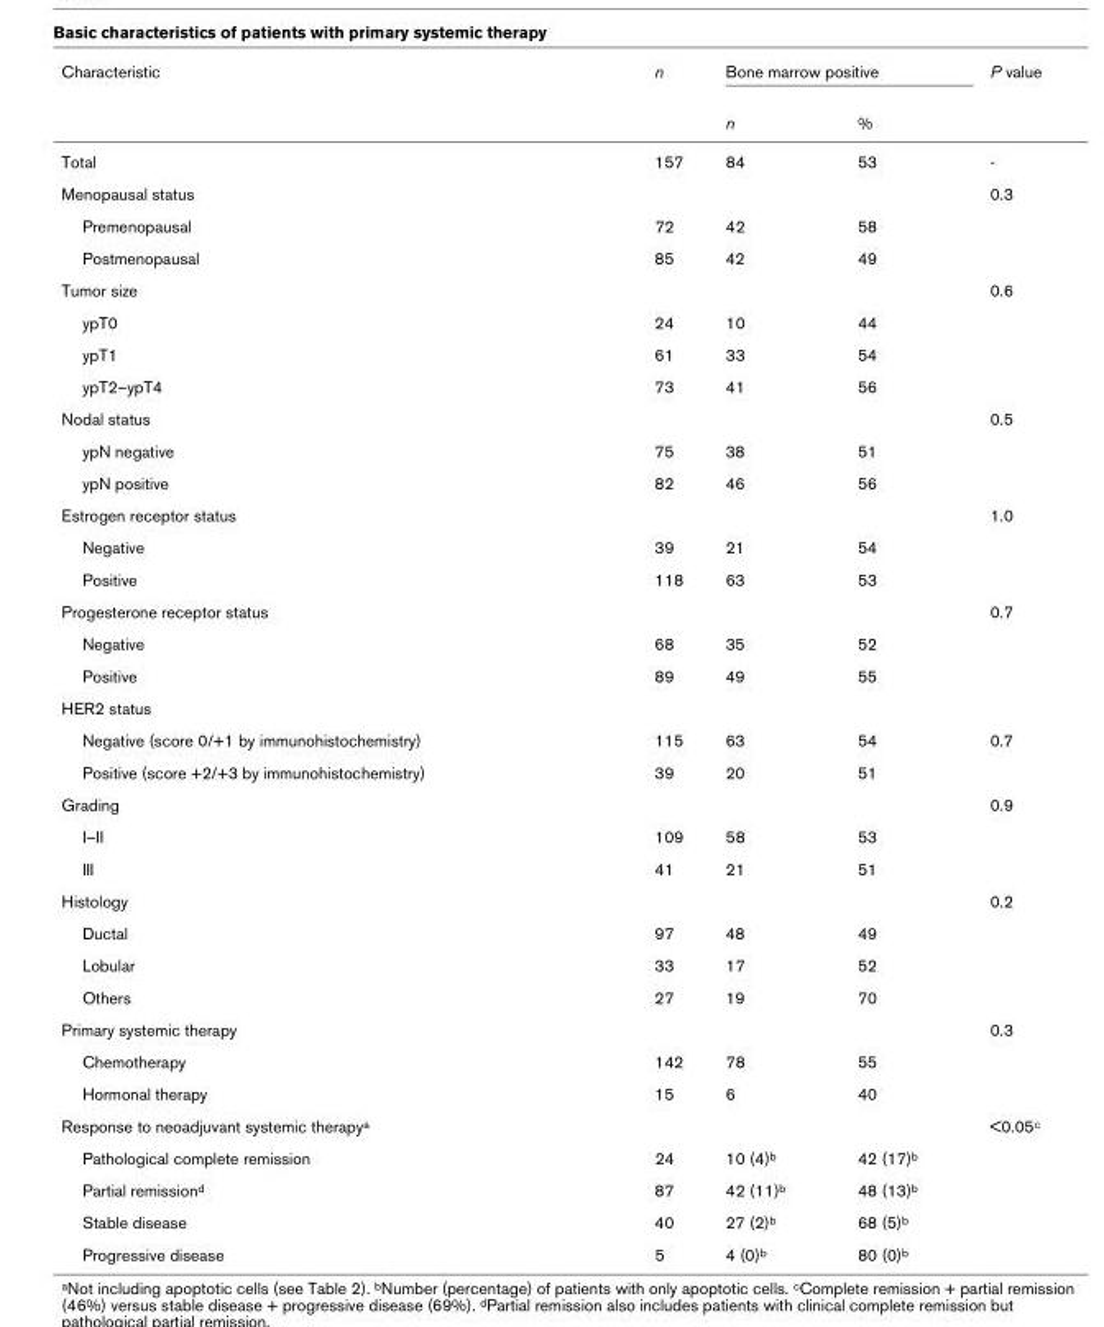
<table><thead><tr><td rowspan="2">Characteristic</td><td rowspan="2">n</td><td colspan="2">Bone marrow positive</td><td rowspan="2">P value</td></tr><tr><td>n</td><td>%</td></tr></thead><tbody><tr><td>Total</td><td>157</td><td>84</td><td>53</td><td>-</td></tr><tr><td>Menopausal status</td><td></td><td></td><td></td><td>0.3</td></tr><tr><td>Premenopausal</td><td>72</td><td>42</td><td>58</td><td></td></tr><tr><td>Postmenopausal</td><td>85</td><td>42</td><td>49</td><td></td></tr><tr><td>Tumor size</td><td></td><td></td><td></td><td>0.6</td></tr><tr><td>ypT0</td><td>24</td><td>10</td><td>44</td><td></td></tr><tr><td>ypT1</td><td>61</td><td>33</td><td>54</td><td></td></tr><tr><td>ypT2–ypT4</td><td>73</td><td>41</td><td>56</td><td></td></tr><tr><td>Nodal status</td><td></td><td></td><td></td><td>0.5</td></tr><tr><td>ypN negative</td><td>75</td><td>38</td><td>51</td><td></td></tr><tr><td>ypN positive</td><td>82</td><td>46</td><td>56</td><td></td></tr><tr><td>Estrogen receptor status</td><td></td><td></td><td></td><td>1.0</td></tr><tr><td>Negative</td><td>39</td><td>21</td><td>54</td><td></td></tr><tr><td>Positive</td><td>118</td><td>63</td><td>53</td><td></td></tr><tr><td>Progesterone receptor status</td><td></td><td></td><td></td><td>0.7</td></tr><tr><td>Negative</td><td>68</td><td>35</td><td>52</td><td></td></tr><tr><td>Positive</td><td>89</td><td>49</td><td>55</td><td></td></tr><tr><td colspan="5">HER2 status</td></tr><tr><td>Negative (score 0/+1 by immunohistochemistry)</td><td>115</td><td>63</td><td>54</td><td>0.7</td></tr><tr><td>Positive (score +2/+3 by immunohistochemistry)</td><td>39</td><td>20</td><td>51</td><td></td></tr><tr><td>Grading</td><td></td><td></td><td></td><td>0.9</td></tr><tr><td>I–II</td><td>109</td><td>58</td><td>53</td><td></td></tr><tr><td>III</td><td>41</td><td>21</td><td>51</td><td></td></tr><tr><td>Histology</td><td></td><td></td><td></td><td>0.2</td></tr><tr><td>Ductal</td><td>97</td><td>48</td><td>49</td><td></td></tr><tr><td>Lobular</td><td>33</td><td>17</td><td>52</td><td></td></tr><tr><td>Others</td><td>27</td><td>19</td><td>70</td><td></td></tr><tr><td>Primary systemic therapy</td><td></td><td></td><td></td><td>0.3</td></tr><tr><td>Chemotherapy</td><td>142</td><td>78</td><td>55</td><td></td></tr><tr><td>Hormonal therapy</td><td>15</td><td>6</td><td>40</td><td></td></tr><tr><td>Response to neoadjuvant systemic therapya</td><td></td><td></td><td></td><td>&lt;0.05c</td></tr><tr><td>Pathological complete remission</td><td>24</td><td>10 (4)b</td><td>42 (17)b</td><td></td></tr><tr><td>Partial remissiond</td><td>87</td><td>42 (11)b</td><td>48 (13)b</td><td></td></tr><tr><td>Stable disease</td><td>40</td><td>27 (2)b</td><td>68 (5)b</td><td></td></tr><tr><td>Progressive disease</td><td>5</td><td>4 (0)b</td><td>80 (0)b</td><td></td></tr></tbody></table>